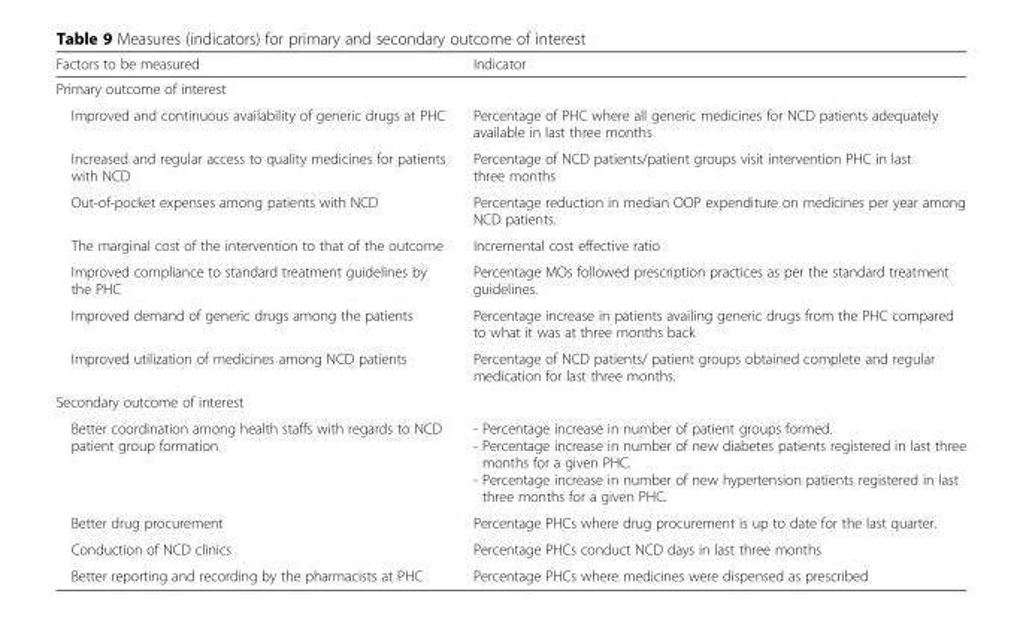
<table><thead><tr><td>Factors to be measured</td><td>Indicator</td></tr></thead><tbody><tr><td colspan="2">Primary outcome of interest</td></tr><tr><td>Improved and continuous availability of generic drugs at PHC</td><td>Percentage of PHC where all generic medicines for NCD patients adequately available in last three months</td></tr><tr><td>Increased and regular access to quality medicines for patients with NCD</td><td>Percentage of NCD patients/patient groups visit intervention PHC in last three months</td></tr><tr><td>Out-of-pocket expenses among patients with NCD</td><td>Percentage reduction in median OOP expenditure on medicines per year among NCD patients.</td></tr><tr><td>The marginal cost of the intervention to that of the outcome</td><td>Incremental cost effective ratio</td></tr><tr><td>Improved compliance to standard treatment guidelines by the PHC</td><td>Percentage MOs followed prescription practices as per the standard treatment guidelines.</td></tr><tr><td>Improved demand of generic drugs among the patients</td><td>Percentage increase in patients availing generic drugs from the PHC compared to what it was at three months back</td></tr><tr><td>Improved utilization of medicines among NCD patients</td><td>Percentage of NCD patients/ patient groups obtained complete and regular medication for last three months.</td></tr><tr><td colspan="2">Secondary outcome of interest</td></tr><tr><td>Better coordination among health staffs with regards to NCD patient group formation</td><td>- Percentage increase in number of patient groups formed. - Percentage increase in number of new diabetes patients registered in last three months for a given PHC. - Percentage increase in number of new hypertension patients registered in last three months for a given PHC.</td></tr><tr><td>Better drug procurement</td><td>Percentage PHCs where drug procurement is up to date for the last quarter.</td></tr><tr><td>Conduction of NCD clinics</td><td>Percentage PHCs conduct NCD days in last three months</td></tr><tr><td>Better reporting and recording by the pharmacists at PHC</td><td>Percentage PHCs where medicines were dispensed as prescribed</td></tr></tbody></table>